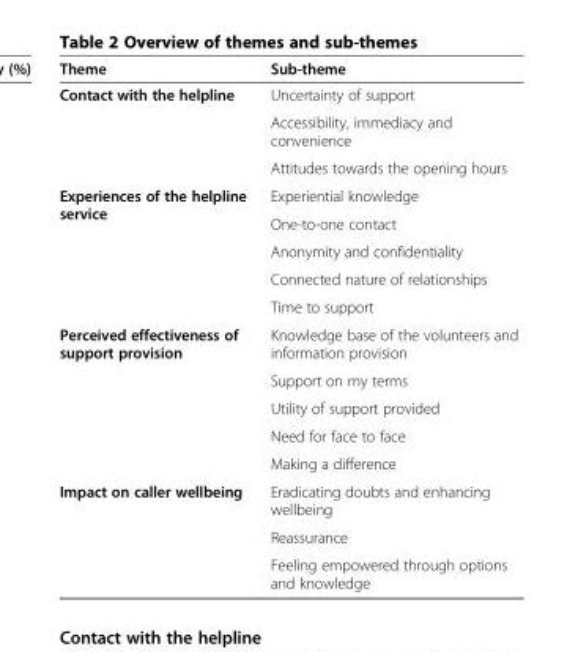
<table><thead><tr><td>Theme</td><td>Sub-theme</td></tr></thead><tbody><tr><td rowspan="3">Contact with the helpline</td><td>Uncertainty of support</td></tr><tr><td>Accessibility, immediacy and convenience</td></tr><tr><td>Attitudes towards the opening hours</td></tr><tr><td rowspan="5">Experiences of the helpline service</td><td>Experiential knowledge</td></tr><tr><td>One-to-one contact</td></tr><tr><td>Anonymity and confidentiality</td></tr><tr><td>Connected nature of relationships</td></tr><tr><td>Time to support</td></tr><tr><td rowspan="5">Perceived effectiveness of support provision</td><td>Knowledge base of the volunteers and information provision</td></tr><tr><td>Support on my terms</td></tr><tr><td>Utility of support provided</td></tr><tr><td>Need for face to face</td></tr><tr><td>Making a difference</td></tr><tr><td rowspan="3">Impact on caller wellbeing</td><td>Eradicating doubts and enhancing wellbeing</td></tr><tr><td>Reassurance</td></tr><tr><td>Feeling empowered through options and knowledge</td></tr></tbody></table>